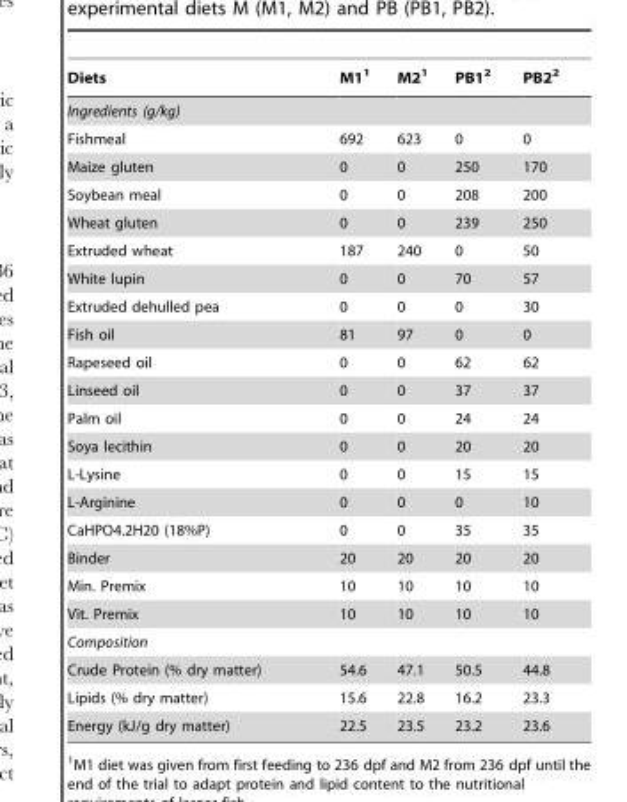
<table><thead><tr><td>Diets</td><td>M1<sup>1</sup></td><td>M2<sup>1</sup></td><td>PB1<sup>2</sup></td><td>PB2<sup>2</sup></td></tr></thead><tbody><tr><td colspan="5">Ingredients (g/kg)</td></tr><tr><td>Fishmeal</td><td>692</td><td>623</td><td>0</td><td>0</td></tr><tr><td>Maize gluten</td><td>0</td><td>0</td><td>250</td><td>170</td></tr><tr><td>Soybean meal</td><td>0</td><td>0</td><td>208</td><td>200</td></tr><tr><td>Wheat gluten</td><td>0</td><td>0</td><td>239</td><td>250</td></tr><tr><td>Extruded wheat</td><td>187</td><td>240</td><td>0</td><td>50</td></tr><tr><td>White lupin</td><td>0</td><td>0</td><td>70</td><td>57</td></tr><tr><td>Extruded dehulled pea</td><td>0</td><td>0</td><td>0</td><td>30</td></tr><tr><td>Fish oil</td><td>81</td><td>97</td><td>0</td><td>0</td></tr><tr><td>Rapeseed oil</td><td>0</td><td>0</td><td>62</td><td>62</td></tr><tr><td>Linseed oil</td><td>0</td><td>0</td><td>37</td><td>37</td></tr><tr><td>Palm oil</td><td>0</td><td>0</td><td>24</td><td>24</td></tr><tr><td>Soya lecithin</td><td>0</td><td>0</td><td>20</td><td>20</td></tr><tr><td>L-Lysine</td><td>0</td><td>0</td><td>15</td><td>15</td></tr><tr><td>L-Arginine</td><td>0</td><td>0</td><td>0</td><td>10</td></tr><tr><td>CaHPO4.2H20 (18%P)</td><td>0</td><td>0</td><td>35</td><td>35</td></tr><tr><td>Binder</td><td>20</td><td>20</td><td>20</td><td>20</td></tr><tr><td>Min. Premix</td><td>10</td><td>10</td><td>10</td><td>10</td></tr><tr><td>Vit. Premix</td><td>10</td><td>10</td><td>10</td><td>10</td></tr><tr><td colspan="5">Composition</td></tr><tr><td>Crude Protein (% dry matter)</td><td>54.6</td><td>47.1</td><td>50.5</td><td>44.8</td></tr><tr><td>Lipids (% dry matter)</td><td>15.6</td><td>22.8</td><td>16.2</td><td>23.3</td></tr><tr><td>Energy (kJ/g dry matter)</td><td>22.5</td><td>23.5</td><td>23.2</td><td>23.6</td></tr></tbody></table>